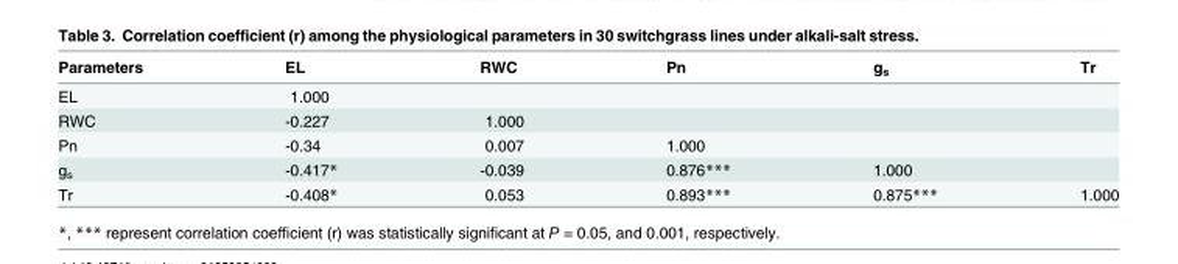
<table><thead><tr><td>Parameters</td><td>EL</td><td>RWC</td><td>Pn</td><td>g<sub>s</sub></td><td>Tr</td></tr></thead><tbody><tr><td>EL</td><td>1.000</td><td></td><td></td><td></td><td></td></tr><tr><td>RWC</td><td>-0.227</td><td>1.000</td><td></td><td></td><td></td></tr><tr><td>Pn</td><td>-0.34</td><td>0.007</td><td>1.000</td><td></td><td></td></tr><tr><td>g<sub>s</sub></td><td>-0.417*</td><td>-0.039</td><td>0.876***</td><td>1.000</td><td></td></tr><tr><td>Tr</td><td>-0.408*</td><td>0.053</td><td>0.893***</td><td>0.875***</td><td>1.000</td></tr></tbody></table>